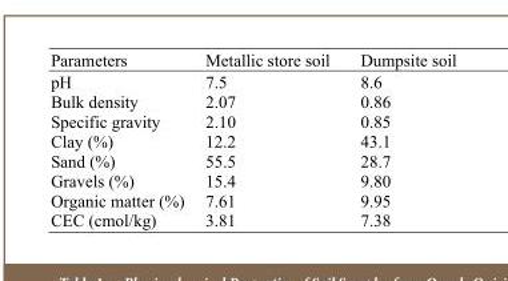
<table><thead><tr><td>Parameters</td><td>Metallic store soil</td><td>Dumpsite soil</td></tr></thead><tbody><tr><td>pH</td><td>7.5</td><td>8.6</td></tr><tr><td>Bulk density</td><td>2.07</td><td>0.86</td></tr><tr><td>Specific gravity</td><td>2.10</td><td>0.85</td></tr><tr><td>Clay (%)</td><td>12.2</td><td>43.1</td></tr><tr><td>Sand (%)</td><td>55.5</td><td>28.7</td></tr><tr><td>Gravels (%)</td><td>15.4</td><td>9.80</td></tr><tr><td>Organic matter (%)</td><td>7.61</td><td>9.95</td></tr><tr><td>CEC (cmol/kg)</td><td>3.81</td><td>7.38</td></tr></tbody></table>